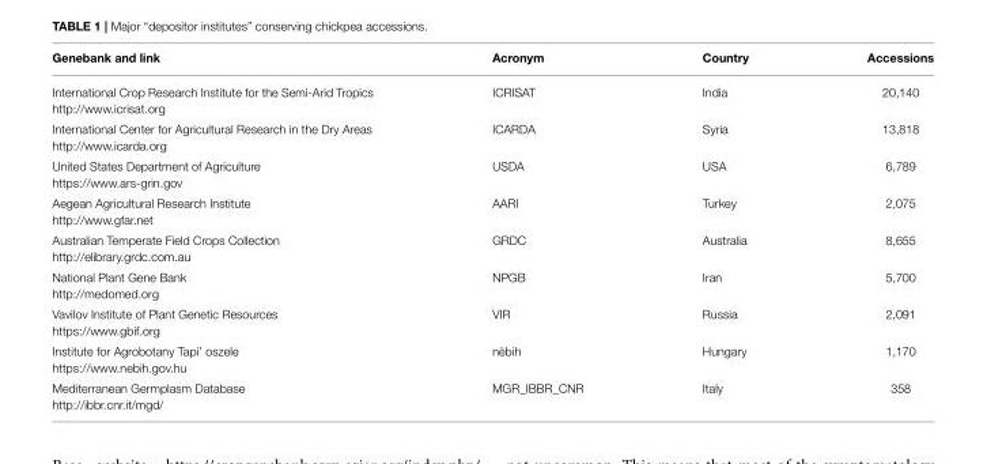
<table><thead><tr><td>Genebank and link</td><td>Acronym</td><td>Country</td><td>Accessions</td></tr></thead><tbody><tr><td>International Crop Research Institute for the Semi-Arid Tropics http://www.icrisat.org</td><td>ICRISAT</td><td>India</td><td>20,140</td></tr><tr><td>International Center for Agricultural Research in the Dry Areas http://www.icarda.org</td><td>ICARDA</td><td>Syria</td><td>13,818</td></tr><tr><td>United States Department of Agriculture https://www.ars-grin.gov</td><td>USDA</td><td>USA</td><td>6,789</td></tr><tr><td>Aegean Agricultural Research Institute http://www.gfar.net</td><td>AARI</td><td>Turkey</td><td>2,075</td></tr><tr><td>Australian Temperate Field Crops Collection http://elibrary.grdc.com.au</td><td>GRDC</td><td>Australia</td><td>8,655</td></tr><tr><td>National Plant Gene Bank http://medomed.org</td><td>NPGB</td><td>Iran</td><td>5,700</td></tr><tr><td>Vavilov Institute of Plant Genetic Resources https://www.gbif.org</td><td>VIR</td><td>Russia</td><td>2,091</td></tr><tr><td>Institute for Agrobotany Tapi’ oszele https://www.nebih.gov.hu</td><td>nèbih</td><td>Hungary</td><td>1,170</td></tr><tr><td>Mediterranean Germplasm Database http://ibbr.cnr.it/mgd/</td><td>MGR_IBBR_CNR</td><td>Italy</td><td>358</td></tr></tbody></table>